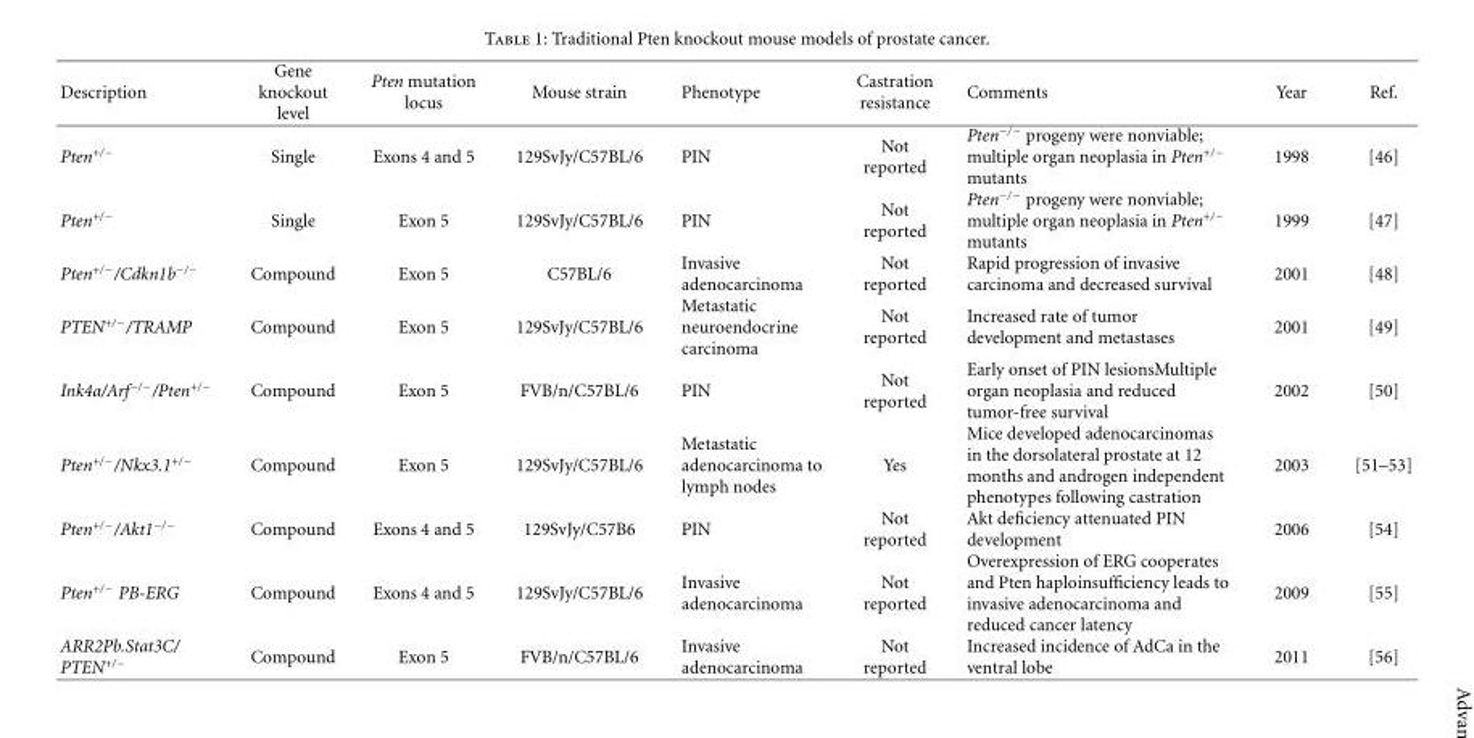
<table><thead><tr><td>Description</td><td>Gene knockout level</td><td>Pten mutation locus</td><td>Mouse strain</td><td>Phenotype</td><td>Castration resistance</td><td>Comments</td><td>Year</td><td>Ref.</td></tr></thead><tbody><tr><td>Pten<sup>+/−</sup></td><td>Single</td><td>Exons 4 and 5</td><td>129SvJy/C57BL/6</td><td>PIN</td><td>Not reported</td><td>Pten<sup>−/−</sup> progeny were nonviable; multiple organ neoplasia in Pten<sup>+/−</sup> mutants</td><td>1998</td><td>[46]</td></tr><tr><td>Pten<sup>+/−</sup></td><td>Single</td><td>Exon 5</td><td>129SvJy/C57BL/6</td><td>PIN</td><td>Not reported</td><td>Pten<sup>−/−</sup> progeny were nonviable; multiple organ neoplasia in Pten<sup>+/−</sup> mutants</td><td>1999</td><td>[47]</td></tr><tr><td>Pten<sup>+/−</sup>/Cdkn1b<sup>−/−</sup></td><td>Compound</td><td>Exon 5</td><td>C57BL/6</td><td>Invasive adenocarcinoma</td><td>Not reported</td><td>Rapid progression of invasive carcinoma and decreased survival</td><td>2001</td><td>[48]</td></tr><tr><td>PTEN<sup>+/−</sup>/TRAMP</td><td>Compound</td><td>Exon 5</td><td>129SvJy/C57BL/6</td><td>Metastatic neuroendocrine carcinoma</td><td>Not reported</td><td>Increased rate of tumor development and metastases</td><td>2001</td><td>[49]</td></tr><tr><td>Ink4a/Arf<sup>−/−</sup>/Pten<sup>+/−</sup></td><td>Compound</td><td>Exon 5</td><td>FVB/n/C57BL/6</td><td>PIN</td><td>Not reported</td><td>Early onset of PIN lesionsMultiple organ neoplasia and reduced tumor-free survival</td><td>2002</td><td>[50]</td></tr><tr><td>Pten<sup>+/−</sup>/Nkx3.1<sup>+/−</sup></td><td>Compound</td><td>Exon 5</td><td>129SvJy/C57BL/6</td><td>Metastatic adenocarcinoma to lymph nodes</td><td>Yes</td><td>Mice developed adenocarcinomas in the dorsolateral prostate at 12 months and androgen independent phenotypes following castration</td><td>2003</td><td>[51–53]</td></tr><tr><td>Pten<sup>+/−</sup>/Akt1<sup>−/−</sup></td><td>Compound</td><td>Exons 4 and 5</td><td>129SvJy/C57B6</td><td>PIN</td><td>Not reported</td><td>Akt deficiency attenuated PIN development</td><td>2006</td><td>[54]</td></tr><tr><td>Pten<sup>+/−</sup> PB-ERG</td><td>Compound</td><td>Exons 4 and 5</td><td>129SvJy/C57BL/6</td><td>Invasive adenocarcinoma</td><td>Not reported</td><td>Overexpression of ERG cooperates and Pten haploinsufficiency leads to invasive adenocarcinoma and reduced cancer latency</td><td>2009</td><td>[55]</td></tr><tr><td>ARR2Pb.Stat3C/ PTEN<sup>+/−</sup></td><td>Compound</td><td>Exon 5</td><td>FVB/n/C57BL/6</td><td>Invasive adenocarcinoma</td><td>Not reported</td><td>Increased incidence of AdCa in the ventral lobe</td><td>2011</td><td>[56]</td></tr></tbody></table>